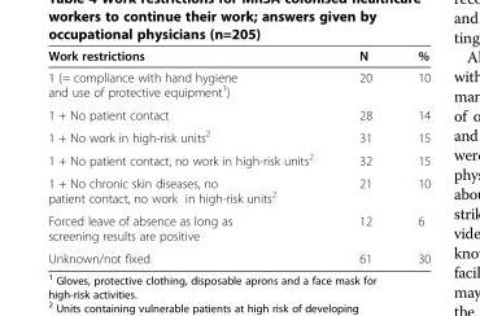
<table><thead><tr><td>Work restrictions</td><td>N</td><td>%</td></tr></thead><tbody><tr><td>1 (= compliance with hand hygiene and use of protective equipment<sup>1</sup>)</td><td>20</td><td>10</td></tr><tr><td>1 + No patient contact</td><td>28</td><td>14</td></tr><tr><td>1 + No work in high-risk units<sup>2</sup></td><td>31</td><td>15</td></tr><tr><td>1 + No patient contact, no work in high-risk units<sup>2</sup></td><td>32</td><td>15</td></tr><tr><td>1 + No chronic skin diseases, no patient contact, no work in high-risk units<sup>2</sup></td><td>21</td><td>10</td></tr><tr><td>Forced leave of absence as long as screening results are positive</td><td>12</td><td>6</td></tr><tr><td>Unknown/not fixed</td><td>61</td><td>30</td></tr></tbody></table>